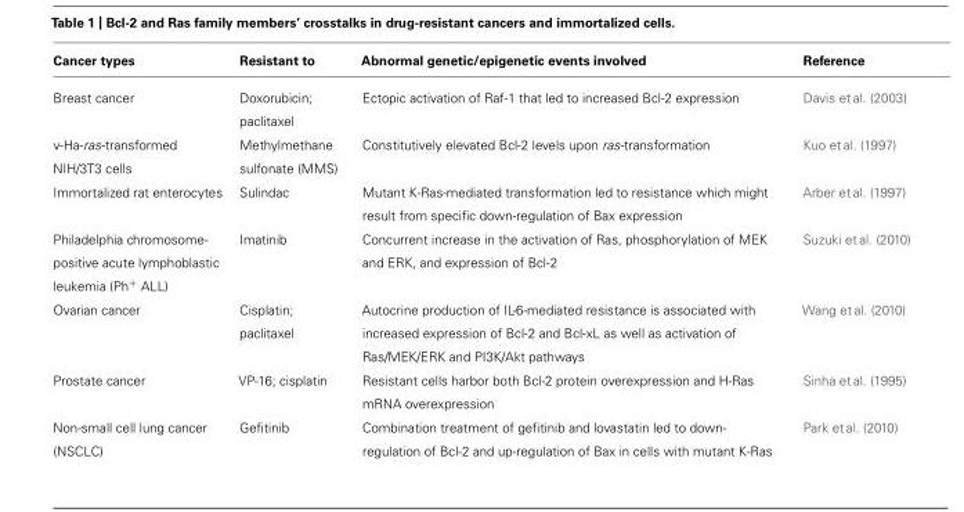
<table><thead><tr><td>Cancer types</td><td>Resistant to</td><td>Abnormal genetic/epigenetic events involved</td><td>Reference</td></tr></thead><tbody><tr><td>Breast cancer</td><td>Doxorubicin; paclitaxel</td><td>Ectopic activation of Raf-1 that led to increased Bcl-2 expression</td><td>Davis et al. (2003)</td></tr><tr><td>v-Ha-ras-transformed NIH/3T3 cells</td><td>Methylmethane sulfonate (MMS)</td><td>Constitutively elevated Bcl-2 levels upon ras-transformation</td><td>Kuo et al. (1997)</td></tr><tr><td>Immortalized rat enterocytes</td><td>Sulindac</td><td>Mutant K-Ras-mediated transformation led to resistance which might result from specific down-regulation of Bax expression</td><td>Arber et al. (1997)</td></tr><tr><td>Philadelphia chromosome- positive acute lymphoblastic leukemia (Ph<sup>+</sup> ALL)</td><td>Imatinib</td><td>Concurrent increase in the activation of Ras, phosphorylation of MEK and ERK, and expression of Bcl-2</td><td>Suzuki et al. (2010)</td></tr><tr><td>Ovarian cancer</td><td>Cisplatin; paclitaxel</td><td>Autocrine production of IL-6-mediated resistance is associated with increased expression of Bcl-2 and Bcl-xL as well as activation of Ras/MEK/ERK and PI3K/Akt pathways</td><td>Wang et al. (2010)</td></tr><tr><td>Prostate cancer</td><td>VP-16; cisplatin</td><td>Resistant cells harbor both Bcl-2 protein overexpression and H-Ras mRNA overexpression</td><td>Sinha et al. (1995)</td></tr><tr><td>Non-small cell lung cancer (NSCLC)</td><td>Gefitinib</td><td>Combination treatment of gefitinib and lovastatin led to down- regulation of Bcl-2 and up-regulation of Bax in cells with mutant K-Ras</td><td>Park et al. (2010)</td></tr></tbody></table>